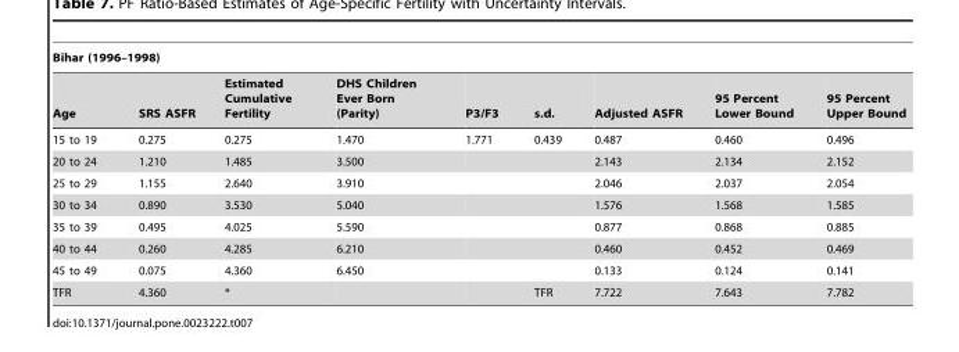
<table><thead><tr><td colspan="9">Bihar (1996–1998)</td></tr><tr><td>Age</td><td>SRS ASFR</td><td>Estimated Cumulative Fertility</td><td>DHS Children Ever Born (Parity)</td><td>P3/F3</td><td>s.d.</td><td>Adjusted ASFR</td><td>95 Percent Lower Bound</td><td>95 Percent Upper Bound</td></tr></thead><tbody><tr><td>15 to 19</td><td>0.275</td><td>0.275</td><td>1.470</td><td>1.771</td><td>0.439</td><td>0.487</td><td>0.460</td><td>0.496</td></tr><tr><td>20 to 24</td><td>1.210</td><td>1.485</td><td>3.500</td><td></td><td></td><td>2.143</td><td>2.134</td><td>2.152</td></tr><tr><td>25 to 29</td><td>1.155</td><td>2.640</td><td>3.910</td><td></td><td></td><td>2.046</td><td>2.037</td><td>2.054</td></tr><tr><td>30 to 34</td><td>0.890</td><td>3.530</td><td>5.040</td><td></td><td></td><td>1.576</td><td>1.568</td><td>1.585</td></tr><tr><td>35 to 39</td><td>0.495</td><td>4.025</td><td>5.590</td><td></td><td></td><td>0.877</td><td>0.868</td><td>0.885</td></tr><tr><td>40 to 44</td><td>0.260</td><td>4.285</td><td>6.210</td><td></td><td></td><td>0.460</td><td>0.452</td><td>0.469</td></tr><tr><td>45 to 49</td><td>0.075</td><td>4.360</td><td>6.450</td><td></td><td></td><td>0.133</td><td>0.124</td><td>0.141</td></tr><tr><td>TFR</td><td>4.360</td><td>*</td><td></td><td></td><td>TFR</td><td>7.722</td><td>7.643</td><td>7.782</td></tr></tbody></table>